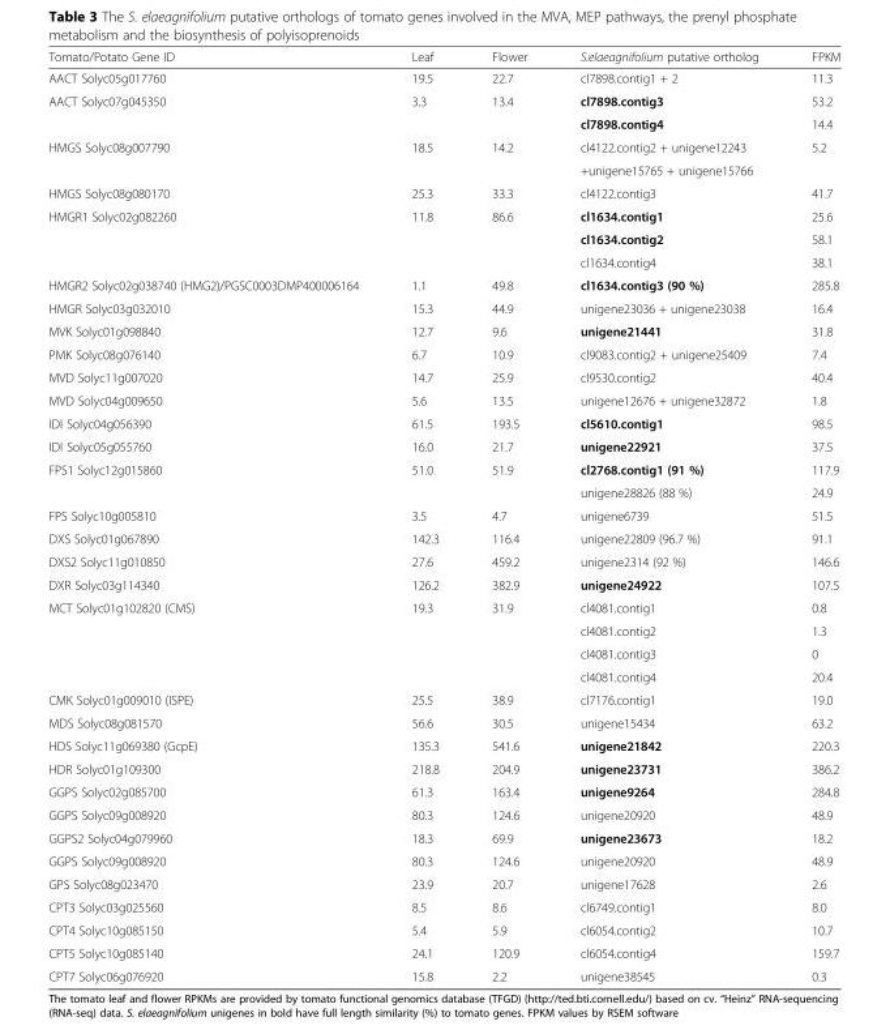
<table><thead><tr><td>Tomato/Potato Gene ID</td><td>Leaf</td><td>Flower</td><td>S.elaeagnifolium putative ortholog</td><td>FPKM</td></tr></thead><tbody><tr><td>AACT Solyc05g017760</td><td>19.5</td><td>22.7</td><td>cl7898.contig1 + 2</td><td>11.3</td></tr><tr><td rowspan="2">AACT Solyc07g045350</td><td rowspan="2">3.3</td><td rowspan="2">13.4</td><td>cl7898.contig3</td><td>53.2</td></tr><tr><td>cl7898.contig4</td><td>14.4</td></tr><tr><td rowspan="2">HMGS Solyc08g007790</td><td rowspan="2">18.5</td><td rowspan="2">14.2</td><td>cl4122.contig2 + unigene12243</td><td rowspan="2">5.2</td></tr><tr><td>+unigene15765 + unigene15766</td></tr><tr><td>HMGS Solyc08g080170</td><td>25.3</td><td>33.3</td><td>cl4122.contig3</td><td>41.7</td></tr><tr><td rowspan="3">HMGR1 Solyc02g082260</td><td rowspan="3">11.8</td><td rowspan="3">86.6</td><td>cl1634.contig1</td><td>25.6</td></tr><tr><td>cl1634.contig2</td><td>58.1</td></tr><tr><td>cl1634.contig4</td><td>38.1</td></tr><tr><td>HMGR2 Solyc02g038740 (HMG2)/PGSC0003DMP400006164</td><td>1.1</td><td>49.8</td><td>cl1634.contig3 (90 %)</td><td>285.8</td></tr><tr><td>HMGR Solyc03g032010</td><td>15.3</td><td>44.9</td><td>unigene23036 + unigene23038</td><td>16.4</td></tr><tr><td>MVK Solyc01g098840</td><td>12.7</td><td>9.6</td><td>unigene21441</td><td>31.8</td></tr><tr><td>PMK Solyc08g076140</td><td>6.7</td><td>10.9</td><td>cl9083.contig2 + unigene25409</td><td>7.4</td></tr><tr><td>MVD Solyc11g007020</td><td>14.7</td><td>25.9</td><td>cl9530.contig2</td><td>40.4</td></tr><tr><td>MVD Solyc04g009650</td><td>5.6</td><td>13.5</td><td>unigene12676 + unigene32872</td><td>1.8</td></tr><tr><td>IDI Solyc04g056390</td><td>61.5</td><td>193.5</td><td>cl5610.contig1</td><td>98.5</td></tr><tr><td>IDI Solyc05g055760</td><td>16.0</td><td>21.7</td><td>unigene22921</td><td>37.5</td></tr><tr><td rowspan="2">FPS1 Solyc12g015860</td><td rowspan="2">51.0</td><td rowspan="2">51.9</td><td>cl2768.contig1 (91 %)</td><td>117.9</td></tr><tr><td>unigene28826 (88 %)</td><td>24.9</td></tr><tr><td>FPS Solyc10g005810</td><td>3.5</td><td>4.7</td><td>unigene6739</td><td>51.5</td></tr><tr><td>DXS Solyc01g067890</td><td>142.3</td><td>116.4</td><td>unigene22809 (96.7 %)</td><td>91.1</td></tr><tr><td>DXS2 Solyc11g010850</td><td>27.6</td><td>459.2</td><td>unigene2314 (92 %)</td><td>146.6</td></tr><tr><td>DXR Solyc03g114340</td><td>126.2</td><td>382.9</td><td>unigene24922</td><td>107.5</td></tr><tr><td rowspan="4">MCT Solyc01g102820 (CMS)</td><td rowspan="4">19.3</td><td rowspan="4">31.9</td><td>cl4081.contig1</td><td>0.8</td></tr><tr><td>cl4081.contig2</td><td>1.3</td></tr><tr><td>cl4081.contig3</td><td>0</td></tr><tr><td>cl4081.contig4</td><td>20.4</td></tr><tr><td>CMK Solyc01g009010 (ISPE)</td><td>25.5</td><td>38.9</td><td>cl7176.contig1</td><td>19.0</td></tr><tr><td>MDS Solyc08g081570</td><td>56.6</td><td>30.5</td><td>unigene15434</td><td>63.2</td></tr><tr><td>HDS Solyc11g069380 (GcpE)</td><td>135.3</td><td>541.6</td><td>unigene21842</td><td>220.3</td></tr><tr><td>HDR Solyc01g109300</td><td>218.8</td><td>204.9</td><td>unigene23731</td><td>386.2</td></tr><tr><td>GGPS Solyc02g085700</td><td>61.3</td><td>163.4</td><td>unigene9264</td><td>284.8</td></tr><tr><td>GGPS Solyc09g008920</td><td>80.3</td><td>124.6</td><td>unigene20920</td><td>48.9</td></tr><tr><td>GGPS2 Solyc04g079960</td><td>18.3</td><td>69.9</td><td>unigene23673</td><td>18.2</td></tr><tr><td>GGPS Solyc09g008920</td><td>80.3</td><td>124.6</td><td>unigene20920</td><td>48.9</td></tr><tr><td>GPS Solyc08g023470</td><td>23.9</td><td>20.7</td><td>unigene17628</td><td>2.6</td></tr><tr><td>CPT3 Solyc03g025560</td><td>8.5</td><td>8.6</td><td>cl6749.contig1</td><td>8.0</td></tr><tr><td>CPT4 Solyc10g085150</td><td>5.4</td><td>5.9</td><td>cl6054.contig2</td><td>10.7</td></tr><tr><td>CPT5 Solyc10g085140</td><td>24.1</td><td>120.9</td><td>cl6054.contig4</td><td>159.7</td></tr><tr><td>CPT7 Solyc06g076920</td><td>15.8</td><td>2.2</td><td>unigene38545</td><td>0.3</td></tr></tbody></table>